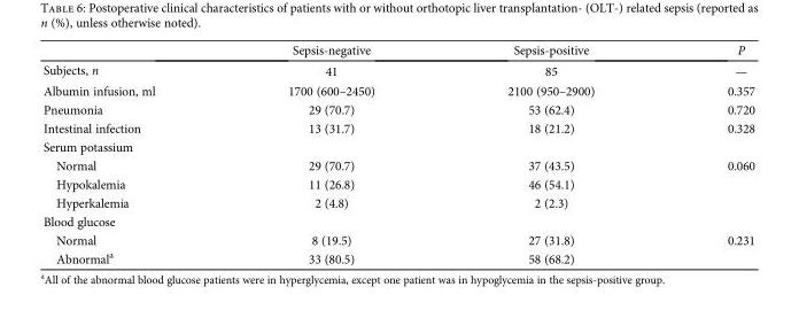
<table><thead><tr><td></td><td>Sepsis-negative</td><td>Sepsis-positive</td><td>P</td></tr></thead><tbody><tr><td>Subjects, n</td><td>41</td><td>85</td><td>—</td></tr><tr><td>Albumin infusion, ml</td><td>1700 (600–2450)</td><td>2100 (950–2900)</td><td>0.357</td></tr><tr><td>Pneumonia</td><td>29 (70.7)</td><td>53 (62.4)</td><td>0.720</td></tr><tr><td>Intestinal infection</td><td>13 (31.7)</td><td>18 (21.2)</td><td>0.328</td></tr><tr><td colspan="4">Serum potassium</td></tr><tr><td>Normal</td><td>29 (70.7)</td><td>37 (43.5)</td><td>0.060</td></tr><tr><td>Hypokalemia</td><td>11 (26.8)</td><td>46 (54.1)</td><td></td></tr><tr><td>Hyperkalemia</td><td>2 (4.8)</td><td>2 (2.3)</td><td></td></tr><tr><td colspan="4">Blood glucose</td></tr><tr><td>Normal</td><td>8 (19.5)</td><td>27 (31.8)</td><td>0.231</td></tr><tr><td>Abnormal<sup>a</sup></td><td>33 (80.5)</td><td>58 (68.2)</td><td></td></tr></tbody></table>